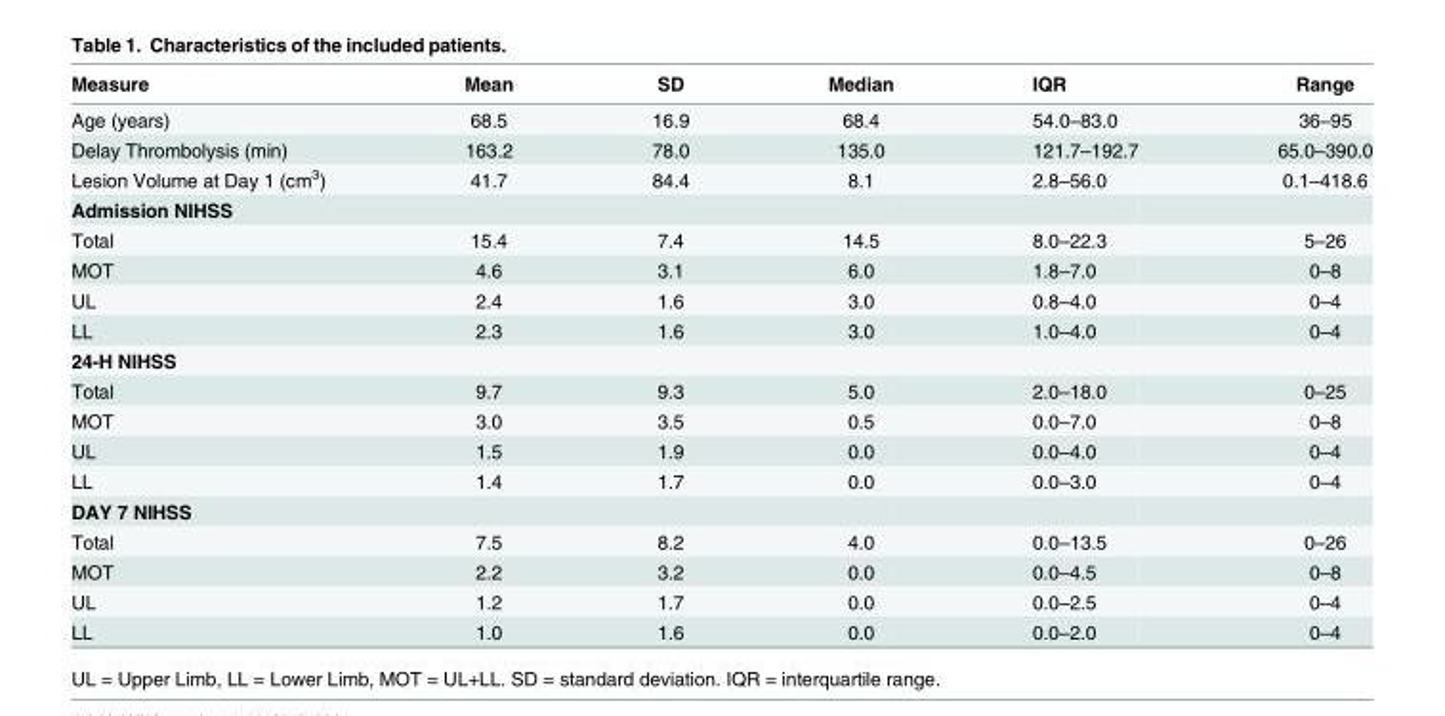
<table><thead><tr><td>Measure</td><td>Mean</td><td>SD</td><td>Median</td><td>IQR</td><td>Range</td></tr></thead><tbody><tr><td>Age (years)</td><td>68.5</td><td>16.9</td><td>68.4</td><td>54.0–83.0</td><td>36–95</td></tr><tr><td>Delay Thrombolysis (min)</td><td>163.2</td><td>78.0</td><td>135.0</td><td>121.7–192.7</td><td>65.0–390.0</td></tr><tr><td>Lesion Volume at Day 1 (cm<sup>3</sup>)</td><td>41.7</td><td>84.4</td><td>8.1</td><td>2.8–56.0</td><td>0.1–418.6</td></tr><tr><td colspan="6">Admission NIHSS</td></tr><tr><td>Total</td><td>15.4</td><td>7.4</td><td>14.5</td><td>8.0–22.3</td><td>5–26</td></tr><tr><td>MOT</td><td>4.6</td><td>3.1</td><td>6.0</td><td>1.8–7.0</td><td>0–8</td></tr><tr><td>UL</td><td>2.4</td><td>1.6</td><td>3.0</td><td>0.8–4.0</td><td>0–4</td></tr><tr><td>LL</td><td>2.3</td><td>1.6</td><td>3.0</td><td>1.0–4.0</td><td>0–4</td></tr><tr><td colspan="6">24-H NIHSS</td></tr><tr><td>Total</td><td>9.7</td><td>9.3</td><td>5.0</td><td>2.0–18.0</td><td>0–25</td></tr><tr><td>MOT</td><td>3.0</td><td>3.5</td><td>0.5</td><td>0.0–7.0</td><td>0–8</td></tr><tr><td>UL</td><td>1.5</td><td>1.9</td><td>0.0</td><td>0.0–4.0</td><td>0–4</td></tr><tr><td>LL</td><td>1.4</td><td>1.7</td><td>0.0</td><td>0.0–3.0</td><td>0–4</td></tr><tr><td colspan="6">DAY 7 NIHSS</td></tr><tr><td>Total</td><td>7.5</td><td>8.2</td><td>4.0</td><td>0.0–13.5</td><td>0–26</td></tr><tr><td>MOT</td><td>2.2</td><td>3.2</td><td>0.0</td><td>0.0–4.5</td><td>0–8</td></tr><tr><td>UL</td><td>1.2</td><td>1.7</td><td>0.0</td><td>0.0–2.5</td><td>0–4</td></tr><tr><td>LL</td><td>1.0</td><td>1.6</td><td>0.0</td><td>0.0–2.0</td><td>0–4</td></tr></tbody></table>